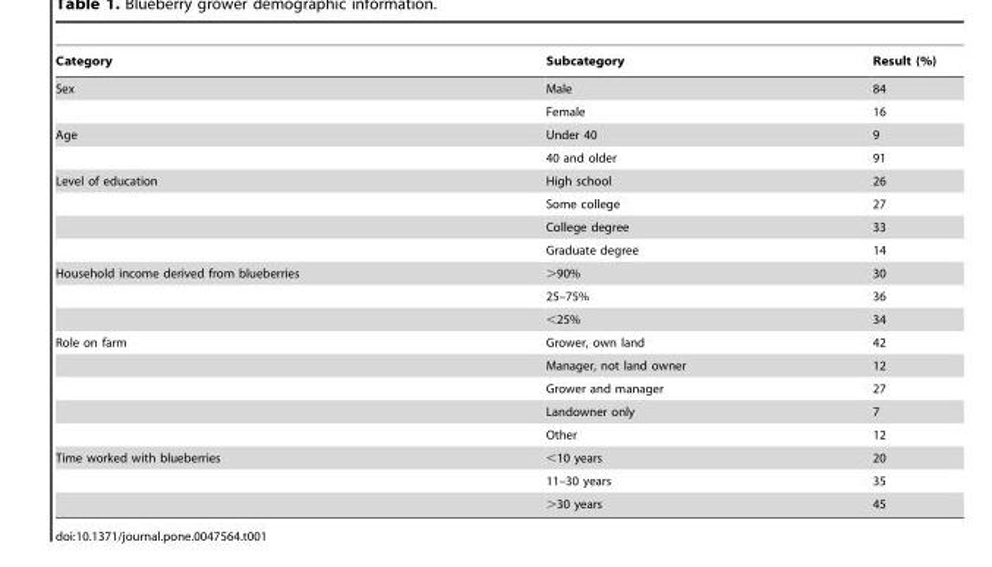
<table><thead><tr><td>Category</td><td>Subcategory</td><td>Result (%)</td></tr></thead><tbody><tr><td rowspan="2">Sex</td><td>Male</td><td>84</td></tr><tr><td>Female</td><td>16</td></tr><tr><td rowspan="2">Age</td><td>Under 40</td><td>9</td></tr><tr><td>40 and older</td><td>91</td></tr><tr><td rowspan="4">Level of education</td><td>High school</td><td>26</td></tr><tr><td>Some college</td><td>27</td></tr><tr><td>College degree</td><td>33</td></tr><tr><td>Graduate degree</td><td>14</td></tr><tr><td rowspan="3">Household income derived from blueberries</td><td>&gt;90%</td><td>30</td></tr><tr><td>25–75%</td><td>36</td></tr><tr><td>&lt;25%</td><td>34</td></tr><tr><td rowspan="5">Role on farm</td><td>Grower, own land</td><td>42</td></tr><tr><td>Manager, not land owner</td><td>12</td></tr><tr><td>Grower and manager</td><td>27</td></tr><tr><td>Landowner only</td><td>7</td></tr><tr><td>Other</td><td>12</td></tr><tr><td rowspan="3">Time worked with blueberries</td><td>&lt;10 years</td><td>20</td></tr><tr><td>11–30 years</td><td>35</td></tr><tr><td>&gt;30 years</td><td>45</td></tr></tbody></table>